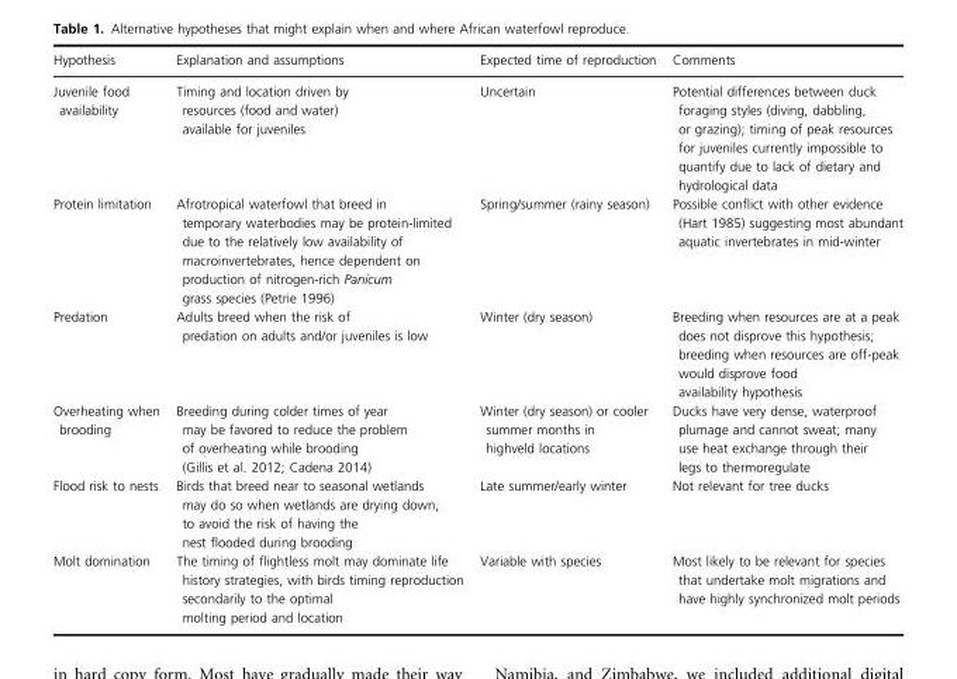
<table><thead><tr><td>Hypothesis</td><td>Explanation and assumptions</td><td>Expected time of reproduction</td><td>Comments</td></tr></thead><tbody><tr><td>Juvenile food availability</td><td>Timing and location driven by resources (food and water) available for juveniles</td><td>Uncertain</td><td>Potential differences between duck foraging styles (diving, dabbling, or grazing); timing of peak resources for juveniles currently impossible to quantify due to lack of dietary and hydrological data</td></tr><tr><td>Protein limitation</td><td>Afrotropical waterfowl that breed in temporary waterbodies may be protein-limited due to the relatively low availability of macroinvertebrates, hence dependent on production of nitrogen-rich Panicum grass species (Petrie 1996)</td><td>Spring/summer (rainy season)</td><td>Possible conflict with other evidence (Hart 1985) suggesting most abundant aquatic invertebrates in mid-winter</td></tr><tr><td>Predation</td><td>Adults breed when the risk of predation on adults and/or juveniles is low</td><td>Winter (dry season)</td><td>Breeding when resources are at a peak does not disprove this hypothesis; breeding when resources are off-peak would disprove food availability hypothesis</td></tr><tr><td>Overheating when brooding</td><td>Breeding during colder times of year may be favored to reduce the problem of overheating while brooding (Gillis et al. 2012; Cadena 2014)</td><td>Winter (dry season) or cooler summer months in highveld locations</td><td>Ducks have very dense, waterproof plumage and cannot sweat; many use heat exchange through their legs to thermoregulate</td></tr><tr><td>Flood risk to nests</td><td>Birds that breed near to seasonal wetlands may do so when wetlands are drying down, to avoid the risk of having the nest flooded during brooding</td><td>Late summer/early winter</td><td>Not relevant for tree ducks</td></tr><tr><td>Molt domination</td><td>The timing of flightless molt may dominate life history strategies, with birds timing reproduction secondarily to the optimal molting period and location</td><td>Variable with species</td><td>Most likely to be relevant for species that undertake molt migrations and have highly synchronized molt periods</td></tr></tbody></table>